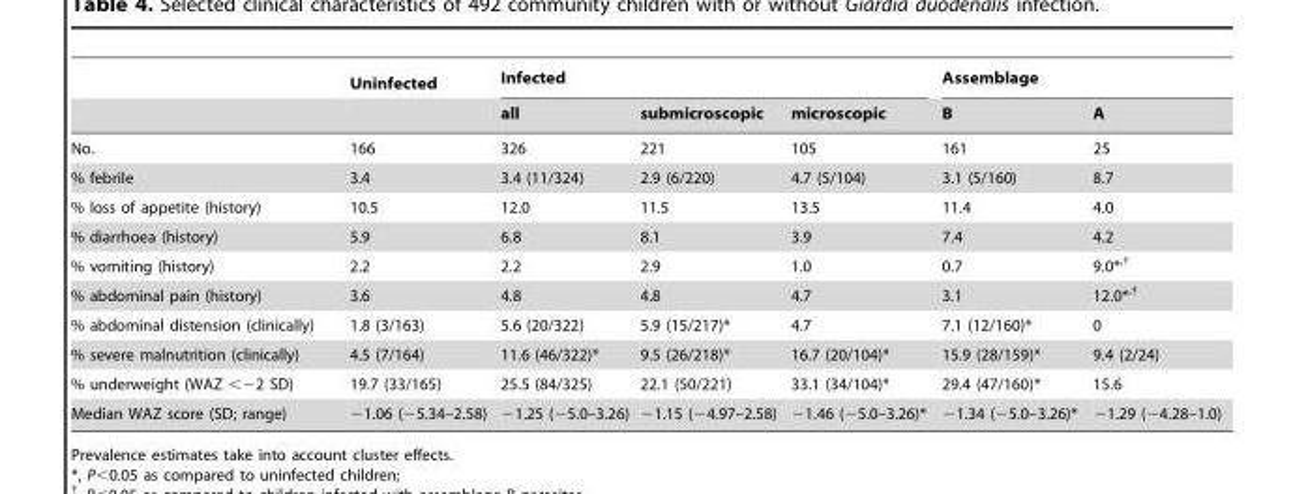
<table><thead><tr><td rowspan="2"></td><td rowspan="2">Uninfected</td><td colspan="3">Infected</td><td colspan="2">Assemblage</td></tr><tr><td>all</td><td>submicroscopic</td><td>microscopic</td><td>B</td><td>A</td></tr></thead><tbody><tr><td>No.</td><td>166</td><td>326</td><td>221</td><td>105</td><td>161</td><td>25</td></tr><tr><td>% febrile</td><td>3.4</td><td>3.4 (11/324)</td><td>2.9 (6/220)</td><td>4.7 (5/104)</td><td>3.1 (5/160)</td><td>8.7</td></tr><tr><td>% loss of appetite (history)</td><td>10.5</td><td>12.0</td><td>11.5</td><td>13.5</td><td>11.4</td><td>4.0</td></tr><tr><td>% diarrhoea (history)</td><td>5.9</td><td>6.8</td><td>8.1</td><td>3.9</td><td>7.4</td><td>4.2</td></tr><tr><td>% vomiting (history)</td><td>2.2</td><td>2.2</td><td>2.9</td><td>1.0</td><td>0.7</td><td>9.0*<sup>,</sup>†</td></tr><tr><td>% abdominal pain (history)</td><td>3.6</td><td>4.8</td><td>4.8</td><td>4.7</td><td>3.1</td><td>12.0*<sup>,</sup>†</td></tr><tr><td>% abdominal distension (clinically)</td><td>1.8 (3/163)</td><td>5.6 (20/322)</td><td>5.9 (15/217)*</td><td>4.7</td><td>7.1 (12/160)*</td><td>0</td></tr><tr><td>% severe malnutrition (clinically)</td><td>4.5 (7/164)</td><td>11.6 (46/322)*</td><td>9.5 (26/218)*</td><td>16.7 (20/104)*</td><td>15.9 (28/159)*</td><td>9.4 (2/24)</td></tr><tr><td>% underweight (WAZ &lt;−2 SD)</td><td>19.7 (33/165)</td><td>25.5 (84/325)</td><td>22.1 (50/221)</td><td>33.1 (34/104)*</td><td>29.4 (47/160)*</td><td>15.6</td></tr><tr><td>Median WAZ score (SD; range)</td><td>−1.06 (−5.34–2.58)</td><td>−1.25 (−5.0–3.26)</td><td>−1.15 (−4.97–2.58)</td><td>−1.46 (−5.0–3.26)*</td><td>−1.34 (−5.0–3.26)*</td><td>−1.29 (−4.28–1.0)</td></tr></tbody></table>